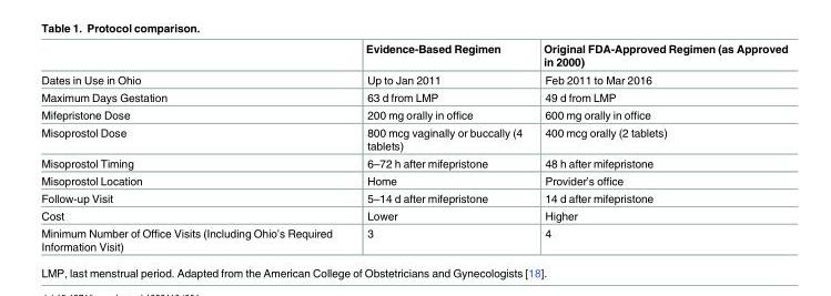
<table><thead><tr><td></td><td>Evidence-Based Regimen</td><td>Original FDA-Approved Regimen (as Approved in 2000)</td></tr></thead><tbody><tr><td>Dates in Use in Ohio</td><td>Up to Jan 2011</td><td>Feb 2011 to Mar 2016</td></tr><tr><td>Maximum Days Gestation</td><td>63 d from LMP</td><td>49 d from LMP</td></tr><tr><td>Mifepristone Dose</td><td>200 mg orally in office</td><td>600 mg orally in office</td></tr><tr><td>Misoprostol Dose</td><td>800 mcg vaginally or buccally (4 tablets)</td><td>400 mcg orally (2 tablets)</td></tr><tr><td>Misoprostol Timing</td><td>6–72 h after mifepristone</td><td>48 h after mifepristone</td></tr><tr><td>Misoprostol Location</td><td>Home</td><td>Provider’s office</td></tr><tr><td>Follow-up Visit</td><td>5–14 d after mifepristone</td><td>14 d after mifepristone</td></tr><tr><td>Cost</td><td>Lower</td><td>Higher</td></tr><tr><td>Minimum Number of Office Visits (Including Ohio’s Required Information Visit)</td><td>3</td><td>4</td></tr></tbody></table>